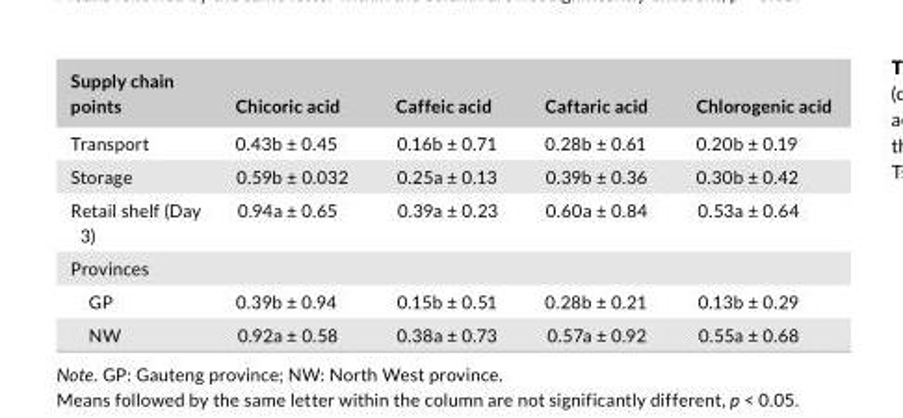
<table><thead><tr><td>Supply chain points</td><td>Chicoric acid</td><td>Caffeic acid</td><td>Caftaric acid</td><td>Chlorogenic acid</td></tr></thead><tbody><tr><td>Transport</td><td>0.43b ± 0.45</td><td>0.16b ± 0.71</td><td>0.28b ± 0.61</td><td>0.20b ± 0.19</td></tr><tr><td>Storage</td><td>0.59b ± 0.032</td><td>0.25a ± 0.13</td><td>0.39b ± 0.36</td><td>0.30b ± 0.42</td></tr><tr><td>Retail shelf (Day 3)</td><td>0.94a ± 0.65</td><td>0.39a ± 0.23</td><td>0.60a ± 0.84</td><td>0.53a ± 0.64</td></tr><tr><td colspan="5">Provinces</td></tr><tr><td>GP</td><td>0.39b ± 0.94</td><td>0.15b ± 0.51</td><td>0.28b ± 0.21</td><td>0.13b ± 0.29</td></tr><tr><td>NW</td><td>0.92a ± 0.58</td><td>0.38a ± 0.73</td><td>0.57a ± 0.92</td><td>0.55a ± 0.68</td></tr></tbody></table>